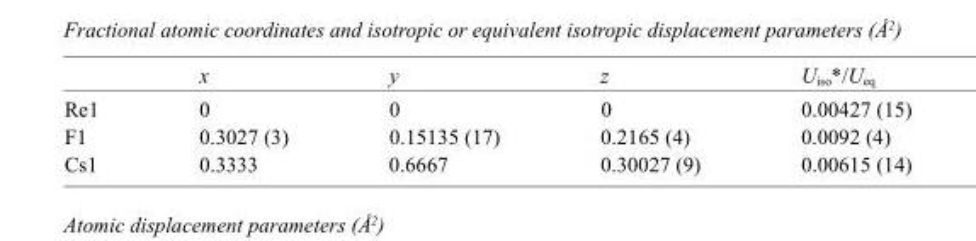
<table><thead><tr><td></td><td>x</td><td>y</td><td>z</td><td>U<sub>iso</sub>*/U<sub>eq</sub></td></tr></thead><tbody><tr><td>Re1</td><td>0</td><td>0</td><td>0</td><td>0.00427 (15)</td></tr><tr><td>F1</td><td>0.3027 (3)</td><td>0.15135 (17)</td><td>0.2165 (4)</td><td>0.0092 (4)</td></tr><tr><td>Cs1</td><td>0.3333</td><td>0.6667</td><td>0.30027 (9)</td><td>0.00615 (14)</td></tr></tbody></table>